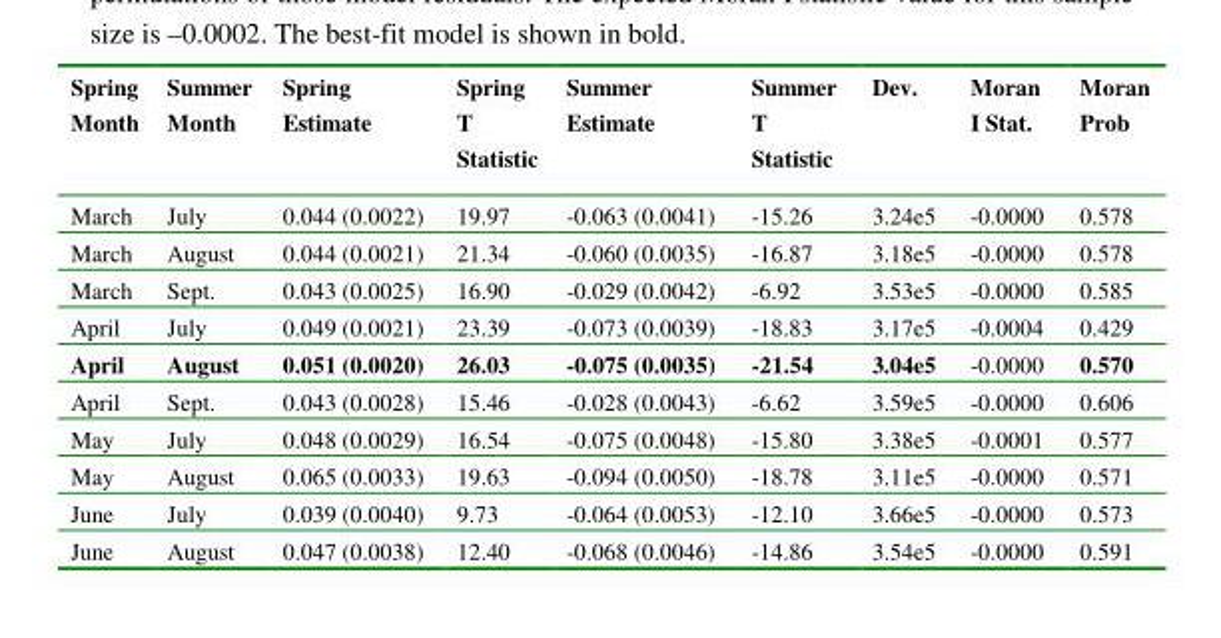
<table><thead><tr><td>Spring Month</td><td>Summer Month</td><td>Spring Estimate</td><td>Spring T Statistic</td><td>Summer Estimate</td><td>Summer T Statistic</td><td>Dev.</td><td>Moran I Stat.</td><td>Moran Prob</td></tr></thead><tbody><tr><td>March</td><td>July</td><td>0.044 (0.0022)</td><td>19.97</td><td>-0.063 (0.0041)</td><td>-15.26</td><td>3.24e5</td><td>-0.0000</td><td>0.578</td></tr><tr><td>March</td><td>August</td><td>0.044 (0.0021)</td><td>21.34</td><td>-0.060 (0.0035)</td><td>-16.87</td><td>3.18e5</td><td>-0.0000</td><td>0.578</td></tr><tr><td>March</td><td>Sept.</td><td>0.043 (0.0025)</td><td>16.90</td><td>-0.029 (0.0042)</td><td>-6.92</td><td>3.53e5</td><td>-0.0000</td><td>0.585</td></tr><tr><td>April</td><td>July</td><td>0.049 (0.0021)</td><td>23.39</td><td>-0.073 (0.0039)</td><td>-18.83</td><td>3.17e5</td><td>-0.0004</td><td>0.429</td></tr><tr><td>April</td><td>August</td><td>0.051 (0.0020)</td><td>26.03</td><td>-0.075 (0.0035)</td><td>-21.54</td><td>3.04e5</td><td>-0.0000</td><td>0.570</td></tr><tr><td>April</td><td>Sept.</td><td>0.043 (0.0028)</td><td>15.46</td><td>-0.028 (0.0043)</td><td>-6.62</td><td>3.59e5</td><td>-0.0000</td><td>0.606</td></tr><tr><td>May</td><td>July</td><td>0.048 (0.0029)</td><td>16.54</td><td>-0.075 (0.0048)</td><td>-15.80</td><td>3.38e5</td><td>-0.0001</td><td>0.577</td></tr><tr><td>May</td><td>August</td><td>0.065 (0.0033)</td><td>19.63</td><td>-0.094 (0.0050)</td><td>-18.78</td><td>3.11e5</td><td>-0.0000</td><td>0.571</td></tr><tr><td>June</td><td>July</td><td>0.039 (0.0040)</td><td>9.73</td><td>-0.064 (0.0053)</td><td>-12.10</td><td>3.66e5</td><td>-0.0000</td><td>0.573</td></tr><tr><td>June</td><td>August</td><td>0.047 (0.0038)</td><td>12.40</td><td>-0.068 (0.0046)</td><td>-14.86</td><td>3.54e5</td><td>-0.0000</td><td>0.591</td></tr></tbody></table>